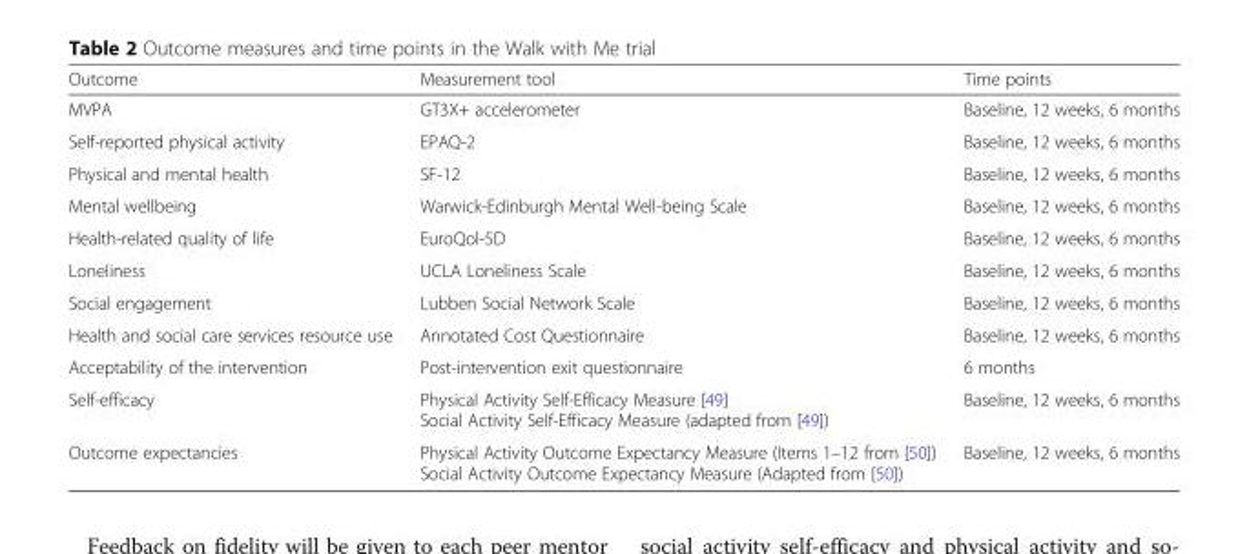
<table><thead><tr><td>Outcome</td><td>Measurement tool</td><td>Time points</td></tr></thead><tbody><tr><td>MVPA</td><td>GT3X+ accelerometer</td><td>Baseline, 12 weeks, 6 months</td></tr><tr><td>Self-reported physical activity</td><td>EPAQ-2</td><td>Baseline, 12 weeks, 6 months</td></tr><tr><td>Physical and mental health</td><td>SF-12</td><td>Baseline, 12 weeks, 6 months</td></tr><tr><td>Mental wellbeing</td><td>Warwick-Edinburgh Mental Well-being Scale</td><td>Baseline, 12 weeks, 6 months</td></tr><tr><td>Health-related quality of life</td><td>EuroQol-5D</td><td>Baseline, 12 weeks, 6 months</td></tr><tr><td>Loneliness</td><td>UCLA Loneliness Scale</td><td>Baseline, 12 weeks, 6 months</td></tr><tr><td>Social engagement</td><td>Lubben Social Network Scale</td><td>Baseline, 12 weeks, 6 months</td></tr><tr><td>Health and social care services resource use</td><td>Annotated Cost Questionnaire</td><td>Baseline, 12 weeks, 6 months</td></tr><tr><td>Acceptability of the intervention</td><td>Post-intervention exit questionnaire</td><td>6 months</td></tr><tr><td>Self-efficacy</td><td>Physical Activity Self-Efficacy Measure [49] Social Activity Self-Efficacy Measure (adapted from [49])</td><td>Baseline, 12 weeks, 6 months</td></tr><tr><td>Outcome expectancies</td><td>Physical Activity Outcome Expectancy Measure (Items 1–12 from [50]) Social Activity Outcome Expectancy Measure (Adapted from [50])</td><td>Baseline, 12 weeks, 6 months</td></tr></tbody></table>